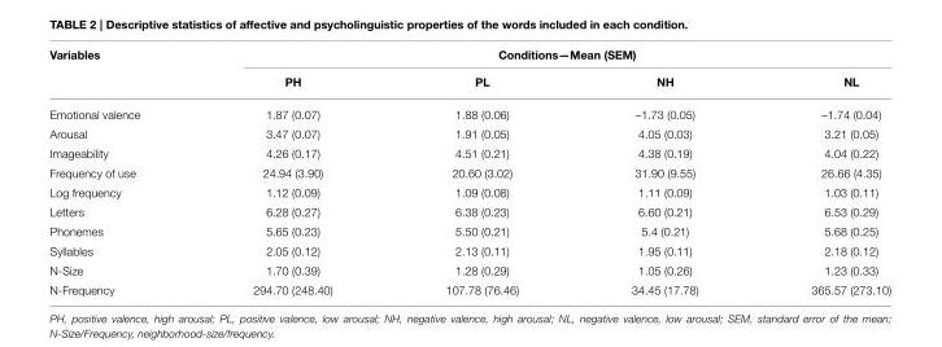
<table><thead><tr><td rowspan="2">Variables</td><td colspan="4">Conditions—Mean (SEM)</td></tr><tr><td>PH</td><td>PL</td><td>NH</td><td>NL</td></tr></thead><tbody><tr><td>Emotional valence</td><td>1.87 (0.07)</td><td>1.88 (0.06)</td><td>–1.73 (0.05)</td><td>–1.74 (0.04)</td></tr><tr><td>Arousal</td><td>3.47 (0.07)</td><td>1.91 (0.05)</td><td>4.05 (0.03)</td><td>3.21 (0.05)</td></tr><tr><td>Imageability</td><td>4.26 (0.17)</td><td>4.51 (0.21)</td><td>4.38 (0.19)</td><td>4.04 (0.22)</td></tr><tr><td>Frequency of use</td><td>24.94 (3.90)</td><td>20.60 (3.02)</td><td>31.90 (9.55)</td><td>26.66 (4.35)</td></tr><tr><td>Log frequency</td><td>1.12 (0.09)</td><td>1.09 (0.08)</td><td>1.11 (0.09)</td><td>1.03 (0.11)</td></tr><tr><td>Letters</td><td>6.28 (0.27)</td><td>6.38 (0.23)</td><td>6.60 (0.21)</td><td>6.53 (0.29)</td></tr><tr><td>Phonemes</td><td>5.65 (0.23)</td><td>5.50 (0.21)</td><td>5.4 (0.21)</td><td>5.68 (0.25)</td></tr><tr><td>Syllables</td><td>2.05 (0.12)</td><td>2.13 (0.11)</td><td>1.95 (0.11)</td><td>2.18 (0.12)</td></tr><tr><td>N-Size</td><td>1.70 (0.39)</td><td>1.28 (0.29)</td><td>1.05 (0.26)</td><td>1.23 (0.33)</td></tr><tr><td>N-Frequency</td><td>294.70 (248.40)</td><td>107.78 (76.46)</td><td>34.45 (17.78)</td><td>365.57 (273.10)</td></tr></tbody></table>